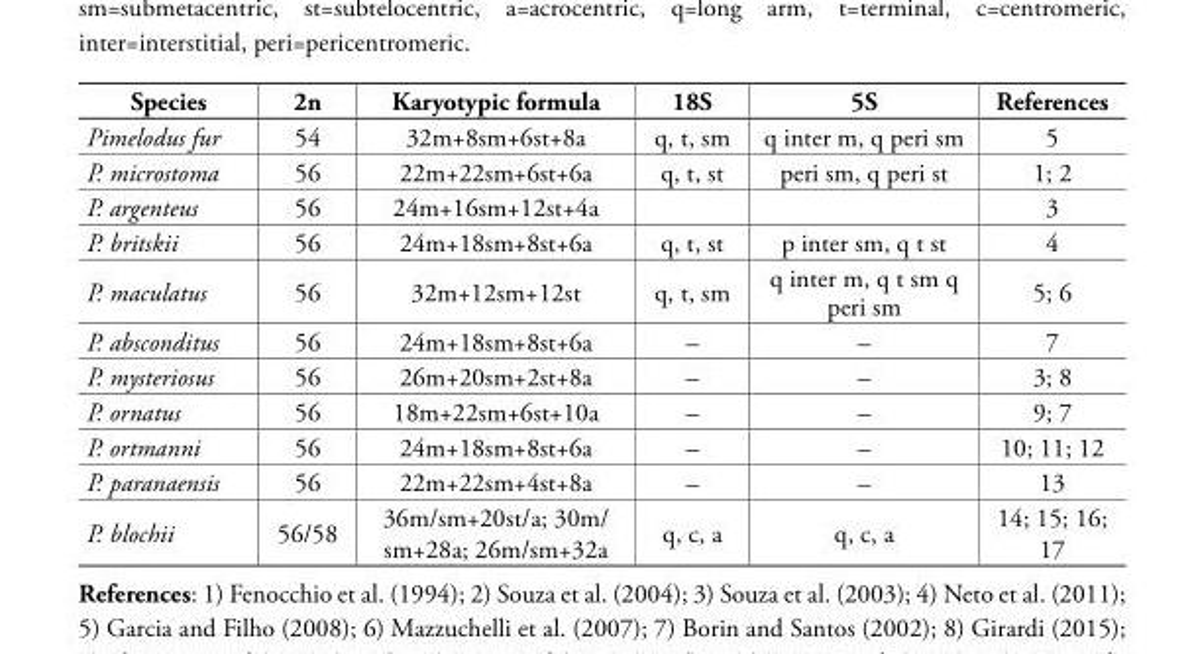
<table><thead><tr><td>Species</td><td>2n</td><td>Karyotypic formula</td><td>18S</td><td>5S</td><td>References</td></tr></thead><tbody><tr><td>Pimelodus fur</td><td>54</td><td>32m+8sm+6st+8a</td><td>q, t, sm</td><td>q inter m, q peri sm</td><td>5</td></tr><tr><td>P. microstoma</td><td>56</td><td>22m+22sm+6st+6a</td><td>q, t, st</td><td>peri sm, q peri st</td><td>1; 2</td></tr><tr><td>P. argenteus</td><td>56</td><td>24m+16sm+12st+4a</td><td></td><td></td><td>3</td></tr><tr><td>P. britskii</td><td>56</td><td>24m+18sm+8st+6a</td><td>q, t, st</td><td>p inter sm, q t st</td><td>4</td></tr><tr><td>P. maculatus</td><td>56</td><td>32m+12sm+12st</td><td>q, t, sm</td><td>q inter m, q t sm q peri sm</td><td>5; 6</td></tr><tr><td>P. absconditus</td><td>56</td><td>24m+18sm+8st+6a</td><td>–</td><td>–</td><td>7</td></tr><tr><td>P. mysteriosus</td><td>56</td><td>26m+20sm+2st+8a</td><td>–</td><td>–</td><td>3; 8</td></tr><tr><td>P. ornatus</td><td>56</td><td>18m+22sm+6st+10a</td><td>–</td><td>–</td><td>9; 7</td></tr><tr><td>P. ortmanni</td><td>56</td><td>24m+18sm+8st+6a</td><td>–</td><td>–</td><td>10; 11; 12</td></tr><tr><td>P. paranaensis</td><td>56</td><td>22m+22sm+4st+8a</td><td>–</td><td>–</td><td>13</td></tr><tr><td>P. blochii</td><td>56/58</td><td>36m/sm+20st/a; 30m/ sm+28a; 26m/sm+32a</td><td>q, c, a</td><td>q, c, a</td><td>14; 15; 16; 17</td></tr></tbody></table>